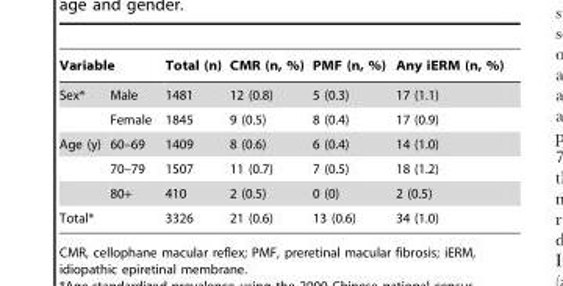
<table><thead><tr><td colspan="2">Variable</td><td rowspan="2">Total (n) 1481</td><td rowspan="2">CMR (n, %) 12 (0.8)</td><td rowspan="2">PMF (n, %) 5 (0.3)</td><td rowspan="2">Any iERM (n, %) 17 (1.1)</td></tr><tr><td>Sex*</td><td>Male</td></tr></thead><tbody><tr><td></td><td>Female</td><td>1845</td><td>9 (0.5)</td><td>8 (0.4)</td><td>17 (0.9)</td></tr><tr><td rowspan="3">Age (y)</td><td>60–69</td><td>1409</td><td>8 (0.6)</td><td>6 (0.4)</td><td>14 (1.0)</td></tr><tr><td>70–79</td><td>1507</td><td>11 (0.7)</td><td>7 (0.5)</td><td>18 (1.2)</td></tr><tr><td>80+</td><td>410</td><td>2 (0.5)</td><td>0 (0)</td><td>2 (0.5)</td></tr><tr><td>Total*</td><td></td><td>3326</td><td>21 (0.6)</td><td>13 (0.6)</td><td>34 (1.0)</td></tr></tbody></table>